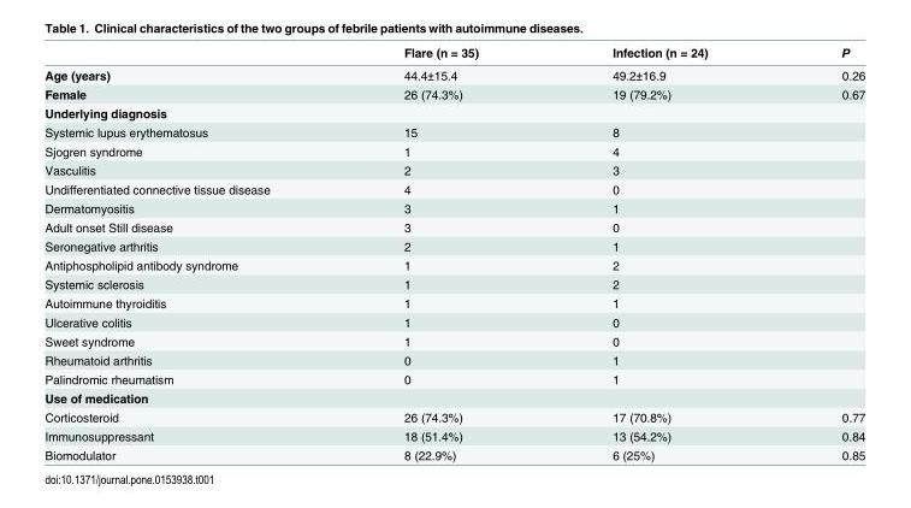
<table><thead><tr><td></td><td>Flare (n = 35)</td><td>Infection (n = 24)</td><td>P</td></tr></thead><tbody><tr><td>Age (years)</td><td>44.4±15.4</td><td>49.2±16.9</td><td>0.26</td></tr><tr><td>Female</td><td>26 (74.3%)</td><td>19 (79.2%)</td><td>0.67</td></tr><tr><td colspan="4">Underlying diagnosis</td></tr><tr><td>Systemic lupus erythematosus</td><td>15</td><td>8</td><td></td></tr><tr><td>Sjogren syndrome</td><td>1</td><td>4</td><td></td></tr><tr><td>Vasculitis</td><td>2</td><td>3</td><td></td></tr><tr><td>Undifferentiated connective tissue disease</td><td>4</td><td>0</td><td></td></tr><tr><td>Dermatomyositis</td><td>3</td><td>1</td><td></td></tr><tr><td>Adult onset Still disease</td><td>3</td><td>0</td><td></td></tr><tr><td>Seronegative arthritis</td><td>2</td><td>1</td><td></td></tr><tr><td>Antiphospholipid antibody syndrome</td><td>1</td><td>2</td><td></td></tr><tr><td>Systemic sclerosis</td><td>1</td><td>2</td><td></td></tr><tr><td>Autoimmune thyroiditis</td><td>1</td><td>1</td><td></td></tr><tr><td>Ulcerative colitis</td><td>1</td><td>0</td><td></td></tr><tr><td>Sweet syndrome</td><td>1</td><td>0</td><td></td></tr><tr><td>Rheumatoid arthritis</td><td>0</td><td>1</td><td></td></tr><tr><td>Palindromic rheumatism</td><td>0</td><td>1</td><td></td></tr><tr><td colspan="4">Use of medication</td></tr><tr><td>Corticosteroid</td><td>26 (74.3%)</td><td>17 (70.8%)</td><td>0.77</td></tr><tr><td>Immunosuppressant</td><td>18 (51.4%)</td><td>13 (54.2%)</td><td>0.84</td></tr><tr><td>Biomodulator</td><td>8 (22.9%)</td><td>6 (25%)</td><td>0.85</td></tr></tbody></table>